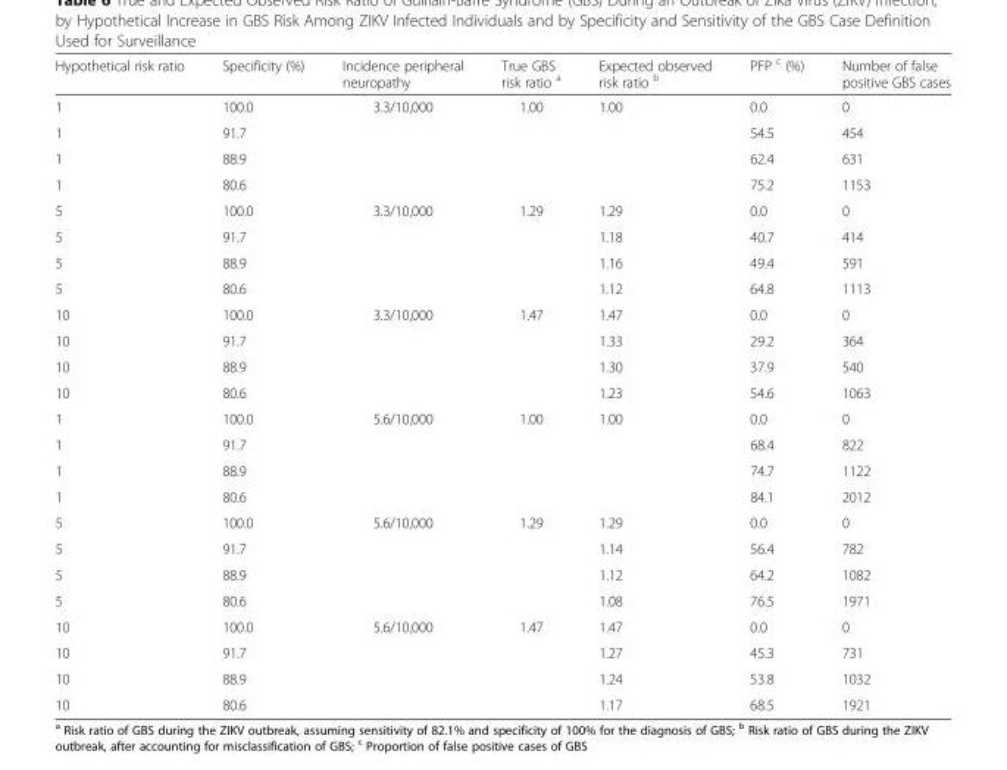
<table><thead><tr><td>Hypothetical risk ratio</td><td>Specificity (%)</td><td>Incidence peripheral neuropathy</td><td>True GBS risk ratio <sup>a</sup></td><td>Expected observed risk ratio <sup>b</sup></td><td>PFP <sup>c</sup> (%)</td><td>Number of false positive GBS cases</td></tr></thead><tbody><tr><td>1</td><td>100.0</td><td>3.3/10,000</td><td>1.00</td><td>1.00</td><td>0.0</td><td>0</td></tr><tr><td>1</td><td>91.7</td><td></td><td></td><td></td><td>54.5</td><td>454</td></tr><tr><td>1</td><td>88.9</td><td></td><td></td><td></td><td>62.4</td><td>631</td></tr><tr><td>1</td><td>80.6</td><td></td><td></td><td></td><td>75.2</td><td>1153</td></tr><tr><td>5</td><td>100.0</td><td>3.3/10,000</td><td>1.29</td><td>1.29</td><td>0.0</td><td>0</td></tr><tr><td>5</td><td>91.7</td><td></td><td></td><td>1.18</td><td>40.7</td><td>414</td></tr><tr><td>5</td><td>88.9</td><td></td><td></td><td>1.16</td><td>49.4</td><td>591</td></tr><tr><td>5</td><td>80.6</td><td></td><td></td><td>1.12</td><td>64.8</td><td>1113</td></tr><tr><td>10</td><td>100.0</td><td>3.3/10,000</td><td>1.47</td><td>1.47</td><td>0.0</td><td>0</td></tr><tr><td>10</td><td>91.7</td><td></td><td></td><td>1.33</td><td>29.2</td><td>364</td></tr><tr><td>10</td><td>88.9</td><td></td><td></td><td>1.30</td><td>37.9</td><td>540</td></tr><tr><td>10</td><td>80.6</td><td></td><td></td><td>1.23</td><td>54.6</td><td>1063</td></tr><tr><td>1</td><td>100.0</td><td>5.6/10,000</td><td>1.00</td><td>1.00</td><td>0.0</td><td>0</td></tr><tr><td>1</td><td>91.7</td><td></td><td></td><td></td><td>68.4</td><td>822</td></tr><tr><td>1</td><td>88.9</td><td></td><td></td><td></td><td>74.7</td><td>1122</td></tr><tr><td>1</td><td>80.6</td><td></td><td></td><td></td><td>84.1</td><td>2012</td></tr><tr><td>5</td><td>100.0</td><td>5.6/10,000</td><td>1.29</td><td>1.29</td><td>0.0</td><td>0</td></tr><tr><td>5</td><td>91.7</td><td></td><td></td><td>1.14</td><td>56.4</td><td>782</td></tr><tr><td>5</td><td>88.9</td><td></td><td></td><td>1.12</td><td>64.2</td><td>1082</td></tr><tr><td>5</td><td>80.6</td><td></td><td></td><td>1.08</td><td>76.5</td><td>1971</td></tr><tr><td>10</td><td>100.0</td><td>5.6/10,000</td><td>1.47</td><td>1.47</td><td>0.0</td><td>0</td></tr><tr><td>10</td><td>91.7</td><td></td><td></td><td>1.27</td><td>45.3</td><td>731</td></tr><tr><td>10</td><td>88.9</td><td></td><td></td><td>1.24</td><td>53.8</td><td>1032</td></tr><tr><td>10</td><td>80.6</td><td></td><td></td><td>1.17</td><td>68.5</td><td>1921</td></tr></tbody></table>